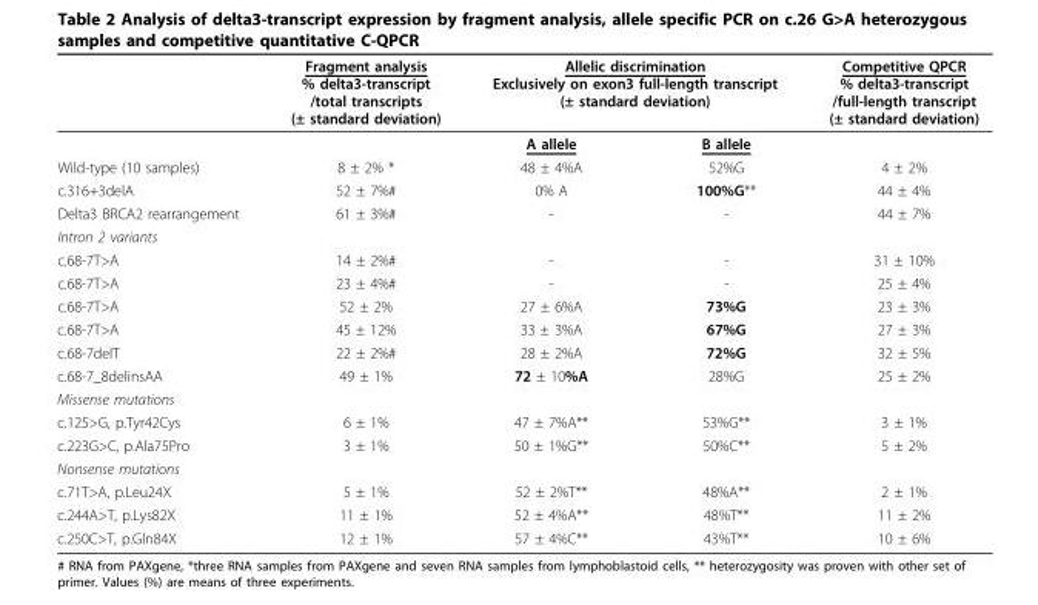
<table><thead><tr><td rowspan="2"></td><td rowspan="2">Fragment analysis % delta3-transcript /total transcripts (± standard deviation)</td><td colspan="2">Allelic discrimination Exclusively on exon3 full-length transcript (± standard deviation)</td><td rowspan="2">Competitive QPCR % delta3-transcript /full-length transcript (± standard deviation)</td></tr><tr><td>A allele</td><td>B allele</td></tr></thead><tbody><tr><td>Wild-type (10 samples)</td><td>8 ± 2% *</td><td>48 ± 4%A</td><td>52%G</td><td>4 ± 2%</td></tr><tr><td>c.316+3delA</td><td>52 ± 7%#</td><td>0% A</td><td>100%G**</td><td>44 ± 4%</td></tr><tr><td>Delta3 BRCA2 rearrangement</td><td>61 ± 3%#</td><td>-</td><td>-</td><td>44 ± 7%</td></tr><tr><td colspan="5">Intron 2 variants</td></tr><tr><td>c.68-7T&gt;A</td><td>14 ± 2%#</td><td>-</td><td>-</td><td>31 ± 10%</td></tr><tr><td>c.68-7T&gt;A</td><td>23 ± 4%#</td><td>-</td><td>-</td><td>25 ± 4%</td></tr><tr><td>c.68-7T&gt;A</td><td>52 ± 2%</td><td>27 ± 6%A</td><td>73%G</td><td>23 ± 3%</td></tr><tr><td>c.68-7T&gt;A</td><td>45 ± 12%</td><td>33 ± 3%A</td><td>67%G</td><td>27 ± 3%</td></tr><tr><td>c.68-7delT</td><td>22 ± 2%#</td><td>28 ± 2%A</td><td>72%G</td><td>32 ± 5%</td></tr><tr><td>c.68-7_8delinsAA</td><td>49 ± 1%</td><td>72 ± 10%A</td><td>28%G</td><td>25 ± 2%</td></tr><tr><td colspan="5">Missense mutations</td></tr><tr><td>c.125&gt;G, p.Tyr42Cys</td><td>6 ± 1%</td><td>47 ± 7%A**</td><td>53%G**</td><td>3 ± 1%</td></tr><tr><td>c.223G&gt;C, p.Ala75Pro</td><td>3 ± 1%</td><td>50 ± 1%G**</td><td>50%C**</td><td>5 ± 2%</td></tr><tr><td colspan="5">Nonsense mutations</td></tr><tr><td>c.71T&gt;A, p.Leu24X</td><td>5 ± 1%</td><td>52 ± 2%T**</td><td>48%A**</td><td>2 ± 1%</td></tr><tr><td>c.244A&gt;T, p.Lys82X</td><td>11 ± 1%</td><td>52 ± 4%A**</td><td>48%T**</td><td>11 ± 2%</td></tr><tr><td>c.250C&gt;T, p.Gln84X</td><td>12 ± 1%</td><td>57 ± 4%C**</td><td>43%T**</td><td>10 ± 6%</td></tr></tbody></table>